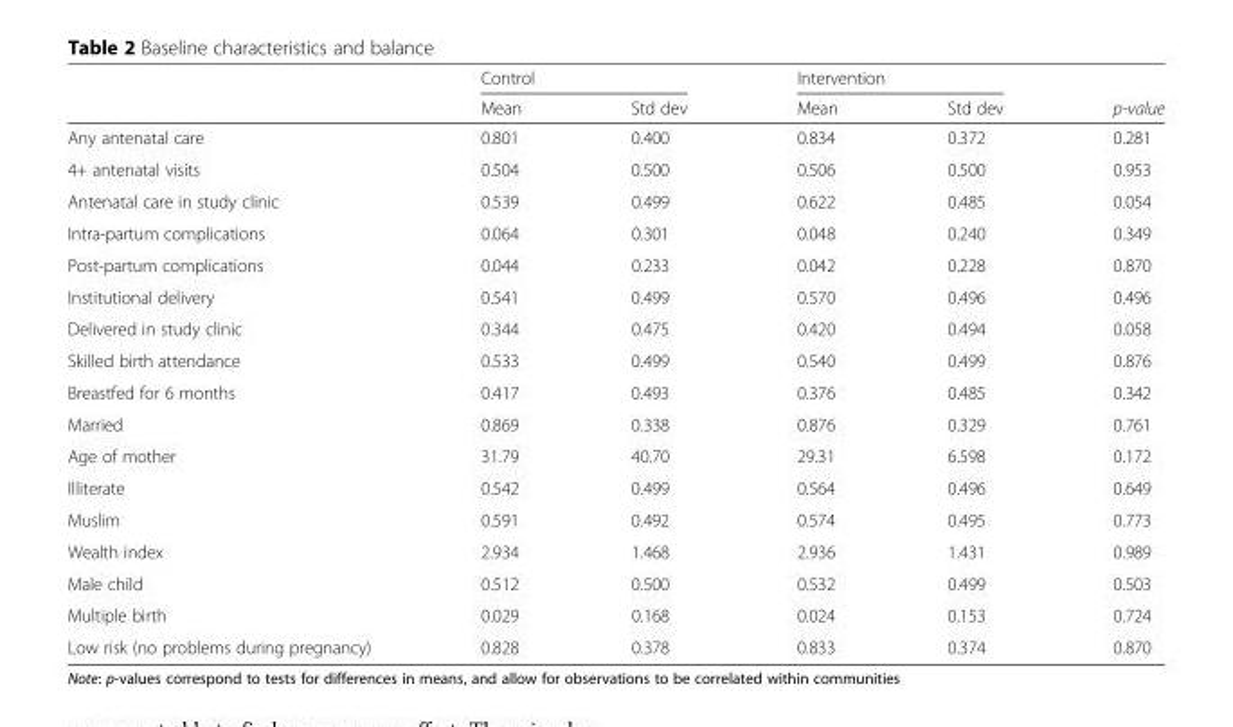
<table><thead><tr><td rowspan="2"></td><td colspan="2">Control</td><td colspan="2">Intervention</td><td rowspan="2">p-value</td></tr><tr><td>Mean</td><td>Std dev</td><td>Mean</td><td>Std dev</td></tr></thead><tbody><tr><td>Any antenatal care</td><td>0.801</td><td>0.400</td><td>0.834</td><td>0.372</td><td>0.281</td></tr><tr><td>4+ antenatal visits</td><td>0.504</td><td>0.500</td><td>0.506</td><td>0.500</td><td>0.953</td></tr><tr><td>Antenatal care in study clinic</td><td>0.539</td><td>0.499</td><td>0.622</td><td>0.485</td><td>0.054</td></tr><tr><td>Intra-partum complications</td><td>0.064</td><td>0.301</td><td>0.048</td><td>0.240</td><td>0.349</td></tr><tr><td>Post-partum complications</td><td>0.044</td><td>0.233</td><td>0.042</td><td>0.228</td><td>0.870</td></tr><tr><td>Institutional delivery</td><td>0.541</td><td>0.499</td><td>0.570</td><td>0.496</td><td>0.496</td></tr><tr><td>Delivered in study clinic</td><td>0.344</td><td>0.475</td><td>0.420</td><td>0.494</td><td>0.058</td></tr><tr><td>Skilled birth attendance</td><td>0.533</td><td>0.499</td><td>0.540</td><td>0.499</td><td>0.876</td></tr><tr><td>Breastfed for 6 months</td><td>0.417</td><td>0.493</td><td>0.376</td><td>0.485</td><td>0.342</td></tr><tr><td>Married</td><td>0.869</td><td>0.338</td><td>0.876</td><td>0.329</td><td>0.761</td></tr><tr><td>Age of mother</td><td>31.79</td><td>40.70</td><td>29.31</td><td>6.598</td><td>0.172</td></tr><tr><td>Illiterate</td><td>0.542</td><td>0.499</td><td>0.564</td><td>0.496</td><td>0.649</td></tr><tr><td>Muslim</td><td>0.591</td><td>0.492</td><td>0.574</td><td>0.495</td><td>0.773</td></tr><tr><td>Wealth index</td><td>2.934</td><td>1.468</td><td>2.936</td><td>1.431</td><td>0.989</td></tr><tr><td>Male child</td><td>0.512</td><td>0.500</td><td>0.532</td><td>0.499</td><td>0.503</td></tr><tr><td>Multiple birth</td><td>0.029</td><td>0.168</td><td>0.024</td><td>0.153</td><td>0.724</td></tr><tr><td>Low risk (no problems during pregnancy)</td><td>0.828</td><td>0.378</td><td>0.833</td><td>0.374</td><td>0.870</td></tr></tbody></table>